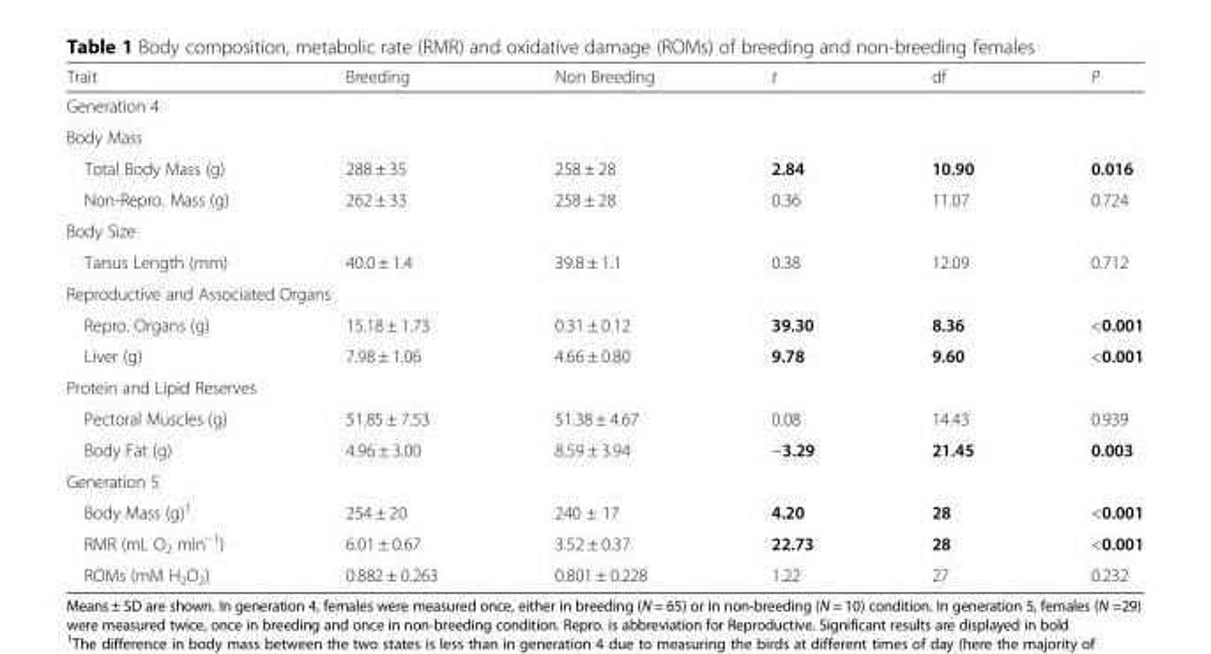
<table><thead><tr><td>Trait</td><td>Breeding</td><td>Non Breeding</td><td>t</td><td>df</td><td>P</td></tr></thead><tbody><tr><td colspan="6">Generation 4</td></tr><tr><td colspan="6">Body Mass</td></tr><tr><td>Total Body Mass (g)</td><td>288 ± 35</td><td>258 ± 28</td><td>2.84</td><td>10.90</td><td>0.016</td></tr><tr><td>Non-Repro. Mass (g)</td><td>262 ± 33</td><td>258 ± 28</td><td>0.36</td><td>11.07</td><td>0.724</td></tr><tr><td colspan="6">Body Size</td></tr><tr><td>Tarsus Length (mm)</td><td>40.0 ± 1.4</td><td>39.8 ± 1.1</td><td>0.38</td><td>12.09</td><td>0.712</td></tr><tr><td colspan="6">Reproductive and Associated Organs</td></tr><tr><td>Repro. Organs (g)</td><td>15.18 ± 1.73</td><td>0.31 ± 0.12</td><td>39.30</td><td>8.36</td><td>&lt;0.001</td></tr><tr><td>Liver (g)</td><td>7.98 ± 1.06</td><td>4.66 ± 0.80</td><td>9.78</td><td>9.60</td><td>&lt;0.001</td></tr><tr><td colspan="6">Protein and Lipid Reserves</td></tr><tr><td>Pectoral Muscles (g)</td><td>51.85 ± 7.53</td><td>51.38 ± 4.67</td><td>0.08</td><td>14.43</td><td>0.939</td></tr><tr><td>Body Fat (g)</td><td>4.96 ± 3.00</td><td>8.59 ± 3.94</td><td>−3.29</td><td>21.45</td><td>0.003</td></tr><tr><td colspan="6">Generation 5</td></tr><tr><td>Body Mass (g)<sup>1</sup></td><td>254 ± 20</td><td>240 ± 17</td><td>4.20</td><td>28</td><td>&lt;0.001</td></tr><tr><td>RMR (mL O<sub>2</sub> min<sup>−1</sup>)</td><td>6.01 ± 0.67</td><td>3.52 ± 0.37</td><td>22.73</td><td>28</td><td>&lt;0.001</td></tr><tr><td>ROMs (mM H<sub>2</sub>O<sub>2</sub>)</td><td>0.882 ± 0.263</td><td>0.801 ± 0.228</td><td>1.22</td><td>27</td><td>0.232</td></tr></tbody></table>